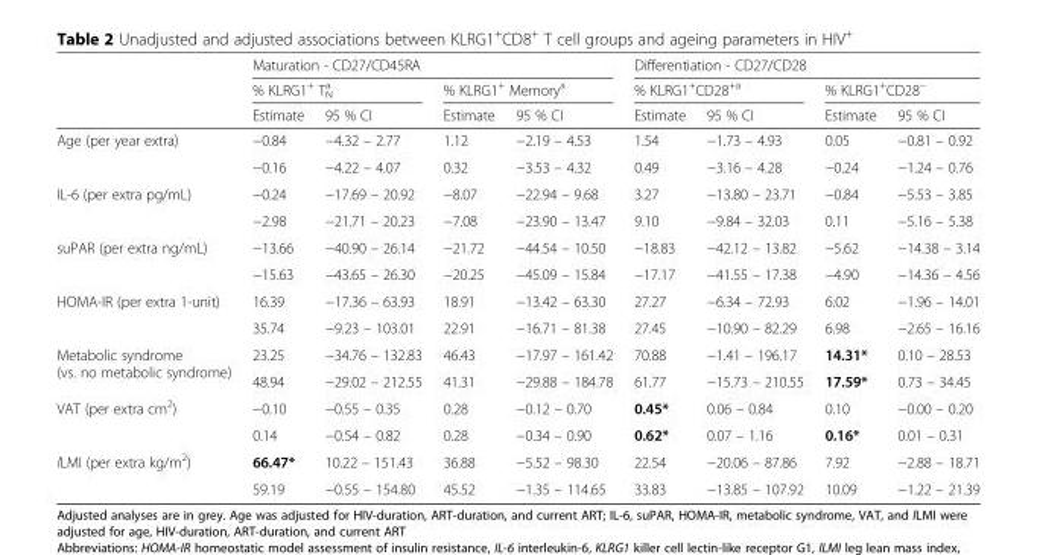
<table><thead><tr><td rowspan="3"></td><td colspan="4">Maturation - CD27/CD45RA</td><td colspan="4">Differentiation - CD27/CD28</td></tr><tr><td colspan="2">% KLRG1<sup>+</sup> T<sub>N</sub> <sup>a</sup></td><td colspan="2">% KLRG1<sup>+</sup> Memory<sup>a</sup></td><td colspan="2">% KLRG1<sup>+</sup>CD28<sup>+a</sup></td><td colspan="2">% KLRG1<sup>+</sup>CD28<sup>−</sup></td></tr><tr><td>Estimate</td><td>95 % CI</td><td>Estimate</td><td>95 % CI</td><td>Estimate</td><td>95 % CI</td><td>Estimate</td><td>95 % CI</td></tr></thead><tbody><tr><td rowspan="2">Age (per year extra)</td><td>−0.84</td><td>−4.32 – 2.77</td><td>1.12</td><td>−2.19 – 4.53</td><td>1.54</td><td>−1.73 – 4.93</td><td>0.05</td><td>−0.81 – 0.92</td></tr><tr><td>−0.16</td><td>−4.22 – 4.07</td><td>0.32</td><td>−3.53 – 4.32</td><td>0.49</td><td>−3.16 – 4.28</td><td>−0.24</td><td>−1.24 – 0.76</td></tr><tr><td rowspan="2">IL-6 (per extra pg/mL)</td><td>−0.24</td><td>−17.69 – 20.92</td><td>−8.07</td><td>−22.94 – 9.68</td><td>3.27</td><td>−13.80 – 23.71</td><td>−0.84</td><td>−5.53 – 3.85</td></tr><tr><td>−2.98</td><td>−21.71 – 20.23</td><td>−7.08</td><td>−23.90 – 13.47</td><td>9.10</td><td>−9.84 – 32.03</td><td>0.11</td><td>−5.16 – 5.38</td></tr><tr><td rowspan="2">suPAR (per extra ng/mL)</td><td>−13.66</td><td>−40.90 – 26.14</td><td>−21.72</td><td>−44.54 – 10.50</td><td>−18.83</td><td>−42.12 – 13.82</td><td>−5.62</td><td>−14.38 – 3.14</td></tr><tr><td>−15.63</td><td>−43.65 – 26.30</td><td>−20.25</td><td>−45.09 – 15.84</td><td>−17.17</td><td>−41.55 – 17.38</td><td>−4.90</td><td>−14.36 – 4.56</td></tr><tr><td rowspan="2">HOMA-IR (per extra 1-unit)</td><td>16.39</td><td>−17.36 – 63.93</td><td>18.91</td><td>−13.42 – 63.30</td><td>27.27</td><td>−6.34 – 72.93</td><td>6.02</td><td>−1.96 – 14.01</td></tr><tr><td>35.74</td><td>−9.23 – 103.01</td><td>22.91</td><td>−16.71 – 81.38</td><td>27.45</td><td>−10.90 – 82.29</td><td>6.98</td><td>−2.65 – 16.16</td></tr><tr><td rowspan="2">Metabolic syndrome (vs. no metabolic syndrome)</td><td>23.25</td><td>−34.76 – 132.83</td><td>46.43</td><td>−17.97 – 161.42</td><td>70.88</td><td>−1.41 – 196.17</td><td>14.31*</td><td>0.10 – 28.53</td></tr><tr><td>48.94</td><td>−29.02 – 212.55</td><td>41.31</td><td>−29.88 – 184.78</td><td>61.77</td><td>−15.73 – 210.55</td><td>17.59*</td><td>0.73 – 34.45</td></tr><tr><td rowspan="2">VAT (per extra cm<sup>2</sup>)</td><td>−0.10</td><td>−0.55 – 0.35</td><td>0.28</td><td>−0.12 – 0.70</td><td>0.45*</td><td>0.06 – 0.84</td><td>0.10</td><td>−0.00 – 0.20</td></tr><tr><td>0.14</td><td>−0.54 – 0.82</td><td>0.28</td><td>−0.34 – 0.90</td><td>0.62*</td><td>0.07 – 1.16</td><td>0.16*</td><td>0.01 – 0.31</td></tr><tr><td rowspan="2">lLMI (per extra kg/m<sup>2</sup>)</td><td>66.47*</td><td>10.22 – 151.43</td><td>36.88</td><td>−5.52 – 98.30</td><td>22.54</td><td>−20.06 – 87.86</td><td>7.92</td><td>−2.88 – 18.71</td></tr><tr><td>59.19</td><td>−0.55 – 154.80</td><td>45.52</td><td>−1.35 – 114.65</td><td>33.83</td><td>−13.85 – 107.92</td><td>10.09</td><td>−1.22 – 21.39</td></tr></tbody></table>